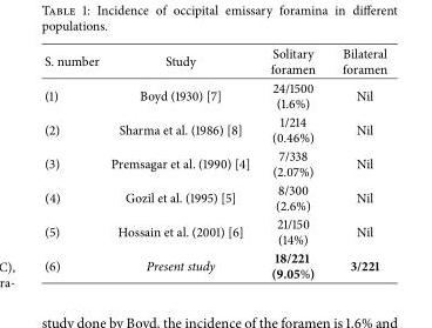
<table><thead><tr><td>S. number</td><td>Study</td><td>Solitary foramen</td><td>Bilateral foramen</td></tr></thead><tbody><tr><td>(1)</td><td>Boyd (1930) [7]</td><td>24/1500 (1.6%)</td><td>Nil</td></tr><tr><td>(2)</td><td>Sharma et al. (1986) [8]</td><td>1/214 (0.46%)</td><td>Nil</td></tr><tr><td>(3)</td><td>Premsagar et al. (1990) [4]</td><td>7/338 (2.07%)</td><td>Nil</td></tr><tr><td>(4)</td><td>Gozil et al. (1995) [5]</td><td>8/300 (2.6%)</td><td>Nil</td></tr><tr><td>(5)</td><td>Hossain et al. (2001) [6]</td><td>21/150 (14%)</td><td>Nil</td></tr><tr><td>(6)</td><td>Present study</td><td>18/221 (9.05%)</td><td>3/221</td></tr></tbody></table>